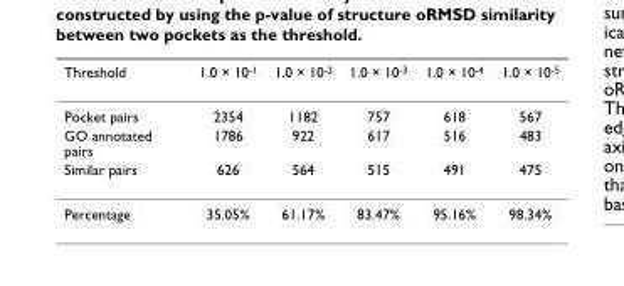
<table><thead><tr><td>Threshold</td><td>1.0 × 10<sup>-1</sup></td><td>1.0 × 10<sup>-2</sup></td><td>1.0 × 10<sup>-3</sup></td><td>1.0 × 10<sup>-4</sup></td><td>1.0 × 10<sup>-5</sup></td></tr></thead><tbody><tr><td>Pocket pairs</td><td>2354</td><td>1182</td><td>757</td><td>618</td><td>567</td></tr><tr><td>GO annotated pairs</td><td>1786</td><td>922</td><td>617</td><td>516</td><td>483</td></tr><tr><td>Similar pairs</td><td>626</td><td>564</td><td>515</td><td>491</td><td>475</td></tr><tr><td>Percentage</td><td>35.05%</td><td>61.17%</td><td>83.47%</td><td>95.16%</td><td>98.34%</td></tr></tbody></table>